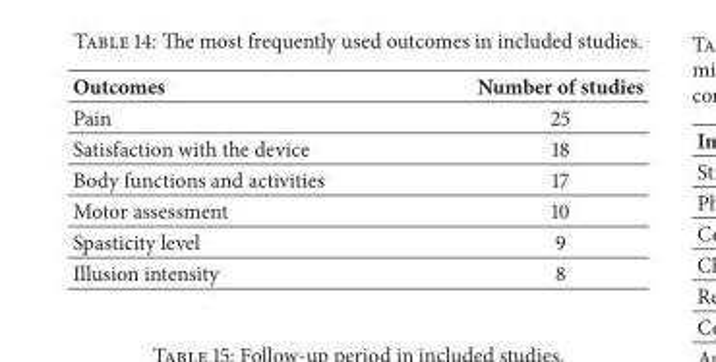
<table><thead><tr><td>Outcomes</td><td>Number of studies</td></tr></thead><tbody><tr><td>Pain</td><td>25</td></tr><tr><td>Satisfaction with the device</td><td>18</td></tr><tr><td>Body functions and activities</td><td>17</td></tr><tr><td>Motor assessment</td><td>10</td></tr><tr><td>Spasticity level</td><td>9</td></tr><tr><td>Illusion intensity</td><td>8</td></tr></tbody></table>